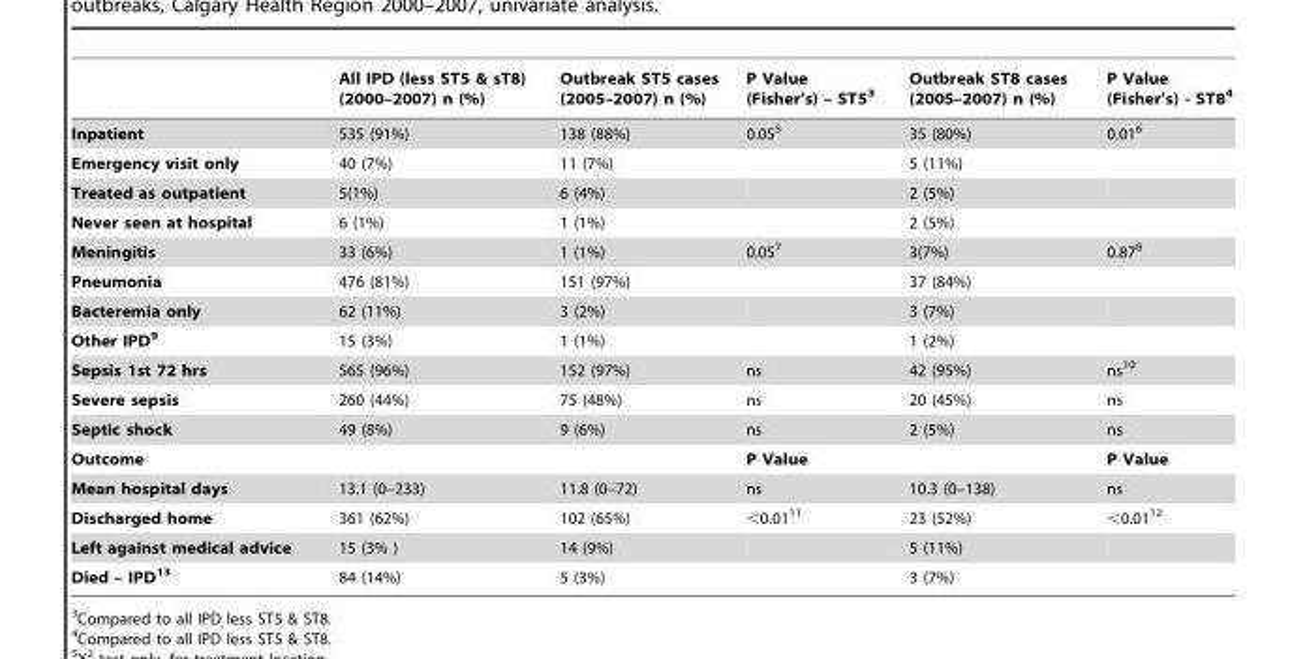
<table><thead><tr><td></td><td>All IPD (less ST5 &amp; sT8) (2000–2007) n (%)</td><td>Outbreak ST5 cases (2005–2007) n (%)</td><td>P Value (Fisher’s) – ST5<sup>3</sup></td><td>Outbreak ST8 cases (2005–2007) n (%)</td><td>P Value (Fisher’s) - ST8<sup>4</sup></td></tr></thead><tbody><tr><td>Inpatient</td><td>535 (91%)</td><td>138 (88%)</td><td>0.05<sup>5</sup></td><td>35 (80%)</td><td>0.01<sup>6</sup></td></tr><tr><td>Emergency visit only</td><td>40 (7%)</td><td>11 (7%)</td><td></td><td>5 (11%)</td><td></td></tr><tr><td>Treated as outpatient</td><td>5(1%)</td><td>6 (4%)</td><td></td><td>2 (5%)</td><td></td></tr><tr><td>Never seen at hospital</td><td>6 (1%)</td><td>1 (1%)</td><td></td><td>2 (5%)</td><td></td></tr><tr><td>Meningitis</td><td>33 (6%)</td><td>1 (1%)</td><td>0.05<sup>7</sup></td><td>3(7%)</td><td>0.87<sup>8</sup></td></tr><tr><td>Pneumonia</td><td>476 (81%)</td><td>151 (97%)</td><td></td><td>37 (84%)</td><td></td></tr><tr><td>Bacteremia only</td><td>62 (11%)</td><td>3 (2%)</td><td></td><td>3 (7%)</td><td></td></tr><tr><td>Other IPD9</td><td>15 (3%)</td><td>1 (1%)</td><td></td><td>1 (2%)</td><td></td></tr><tr><td>Sepsis 1st 72 hrs</td><td>565 (96%)</td><td>152 (97%)</td><td>ns</td><td>42 (95%)</td><td>ns<sup>10</sup></td></tr><tr><td>Severe sepsis</td><td>260 (44%)</td><td>75 (48%)</td><td>ns</td><td>20 (45%)</td><td>ns</td></tr><tr><td>Septic shock</td><td>49 (8%)</td><td>9 (6%)</td><td>ns</td><td>2 (5%)</td><td>ns</td></tr><tr><td>Outcome</td><td></td><td></td><td>P Value</td><td></td><td>P Value</td></tr><tr><td>Mean hospital days</td><td>13.1 (0–233)</td><td>11.8 (0–72)</td><td>ns</td><td>10.3 (0–138)</td><td>ns</td></tr><tr><td>Discharged home</td><td>361 (62%)</td><td>102 (65%)</td><td>&lt;0.01<sup>11</sup></td><td>23 (52%)</td><td>&lt;0.01<sup>12</sup></td></tr><tr><td>Left against medical advice</td><td>15 (3% )</td><td>14 (9%)</td><td></td><td>5 (11%)</td><td></td></tr><tr><td>Died – IPD13</td><td>84 (14%)</td><td>5 (3%)</td><td></td><td>3 (7%)</td><td></td></tr></tbody></table>